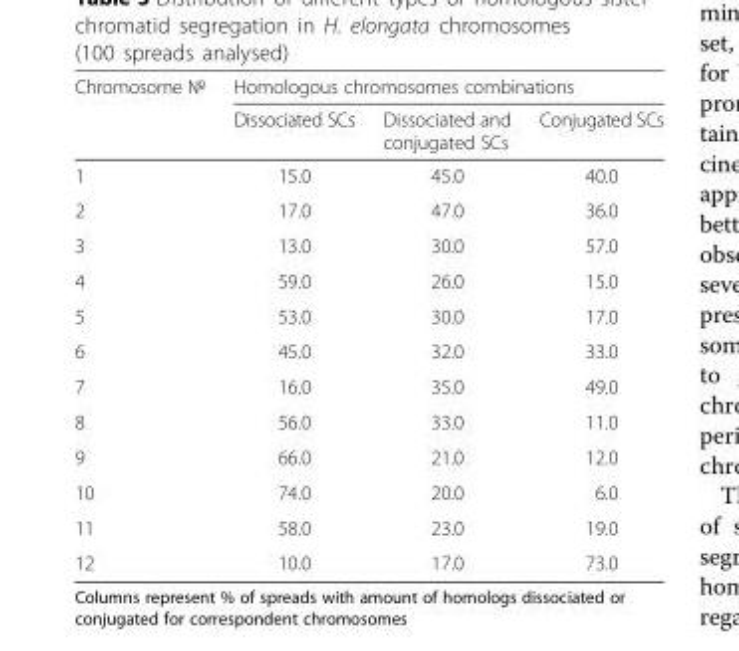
<table><thead><tr><td rowspan="2">Chromosome №</td><td colspan="3">Homologous chromosomes combinations</td></tr><tr><td>Dissociated SCs</td><td>Dissociated and conjugated SCs</td><td>Conjugated SCs</td></tr></thead><tbody><tr><td>1</td><td>15.0</td><td>45.0</td><td>40.0</td></tr><tr><td>2</td><td>17.0</td><td>47.0</td><td>36.0</td></tr><tr><td>3</td><td>13.0</td><td>30.0</td><td>57.0</td></tr><tr><td>4</td><td>59.0</td><td>26.0</td><td>15.0</td></tr><tr><td>5</td><td>53.0</td><td>30.0</td><td>17.0</td></tr><tr><td>6</td><td>45.0</td><td>32.0</td><td>33.0</td></tr><tr><td>7</td><td>16.0</td><td>35.0</td><td>49.0</td></tr><tr><td>8</td><td>56.0</td><td>33.0</td><td>11.0</td></tr><tr><td>9</td><td>66.0</td><td>21.0</td><td>12.0</td></tr><tr><td>10</td><td>74.0</td><td>20.0</td><td>6.0</td></tr><tr><td>11</td><td>58.0</td><td>23.0</td><td>19.0</td></tr><tr><td>12</td><td>10.0</td><td>17.0</td><td>73.0</td></tr></tbody></table>